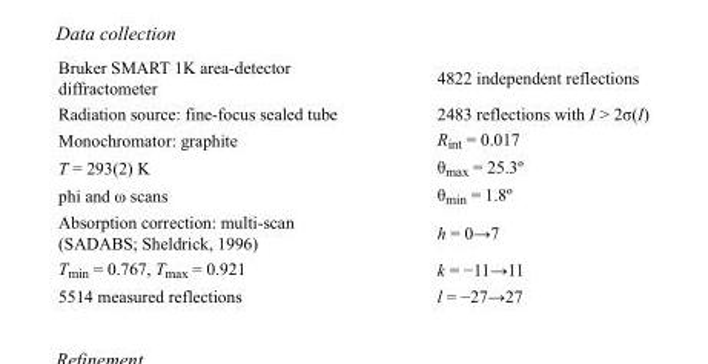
<table><tbody><tr><td>Bruker SMART 1K area-detector diffractometer</td><td>4822 independent reflections</td></tr><tr><td>Radiation source: fine-focus sealed tube</td><td>2483 reflections with I &gt; 2σ(I)</td></tr><tr><td>Monochromator: graphite</td><td>R<sub>int</sub> = 0.017</td></tr><tr><td>T = 293(2) K</td><td>θ<sub>max</sub> = 25.3º</td></tr><tr><td>phi and ω scans</td><td>θ<sub>min</sub> = 1.8º</td></tr><tr><td>Absorption correction: multi-scan (SADABS; Sheldrick, 1996)</td><td>h = 0→7</td></tr><tr><td>T<sub>min</sub> = 0.767, T<sub>max</sub> = 0.921</td><td>k = −11→11</td></tr><tr><td>5514 measured reflections</td><td>l = −27→27</td></tr></tbody></table>